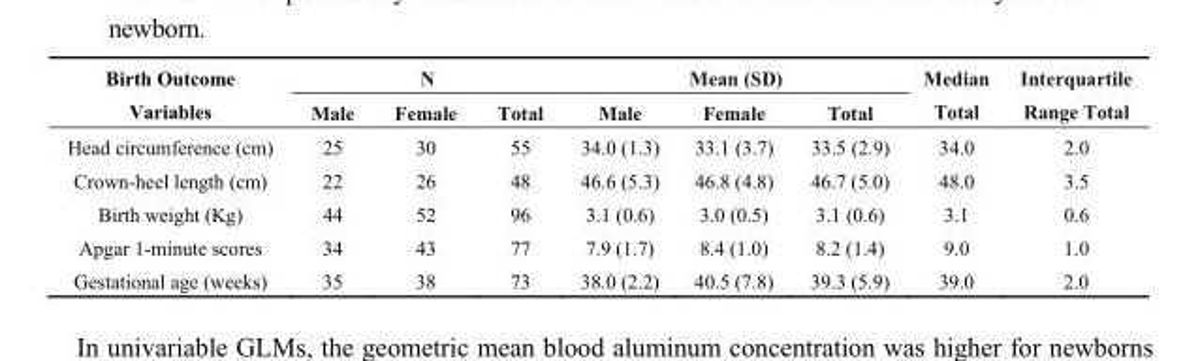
<table><thead><tr><td rowspan="2">Birth Outcome Variables</td><td colspan="3">N</td><td colspan="3">Mean (SD)</td><td rowspan="2">Median Total</td><td rowspan="2">Interquartile Range Total</td></tr><tr><td>Male</td><td>Female</td><td>Total</td><td>Male</td><td>Female</td><td>Total</td></tr></thead><tbody><tr><td>Head circumference (cm)</td><td>25</td><td>30</td><td>55</td><td>34.0 (1.3)</td><td>33.1 (3.7)</td><td>33.5 (2.9)</td><td>34.0</td><td>2.0</td></tr><tr><td>Crown-heel length (cm)</td><td>22</td><td>26</td><td>48</td><td>46.6 (5.3)</td><td>46.8 (4.8)</td><td>46.7 (5.0)</td><td>48.0</td><td>3.5</td></tr><tr><td>Birth weight (Kg)</td><td>44</td><td>52</td><td>96</td><td>3.1 (0.6)</td><td>3.0 (0.5)</td><td>3.1 (0.6)</td><td>3.1</td><td>0.6</td></tr><tr><td>Apgar 1-minute scores</td><td>34</td><td>43</td><td>77</td><td>7.9 (1.7)</td><td>8.4 (1.0)</td><td>8.2 (1.4)</td><td>9.0</td><td>1.0</td></tr><tr><td>Gestational age (weeks)</td><td>35</td><td>38</td><td>73</td><td>38.0 (2.2)</td><td>40.5 (7.8)</td><td>39.3 (5.9)</td><td>39.0</td><td>2.0</td></tr></tbody></table>